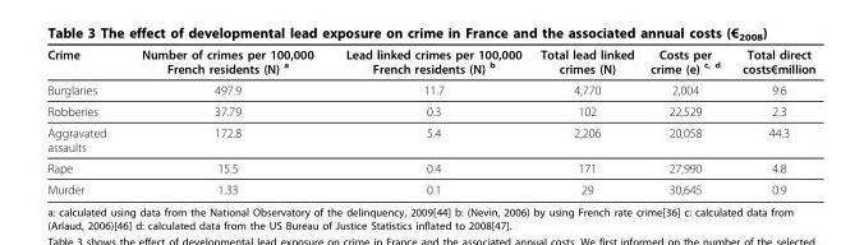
<table><thead><tr><td>Crime</td><td>Number of crimes per 100,000 French residents (N) <sup>a</sup></td><td>Lead linked crimes per 100,000 French residents (N) <sup>b</sup></td><td>Total lead linked crimes (N)</td><td>Costs per crime (e) <sup>c, d</sup></td><td>Total direct costs€million</td></tr></thead><tbody><tr><td>Burglaries</td><td>497.9</td><td>11.7</td><td>4,770</td><td>2,004</td><td>9.6</td></tr><tr><td>Robberies</td><td>37.79</td><td>0.3</td><td>102</td><td>22,529</td><td>2.3</td></tr><tr><td>Aggravated assaults</td><td>172.8</td><td>5.4</td><td>2,206</td><td>20,058</td><td>44.3</td></tr><tr><td>Rape</td><td>15.5</td><td>0.4</td><td>171</td><td>27,990</td><td>4.8</td></tr><tr><td>Murder</td><td>1.33</td><td>0.1</td><td>29</td><td>30,645</td><td>0.9</td></tr></tbody></table>